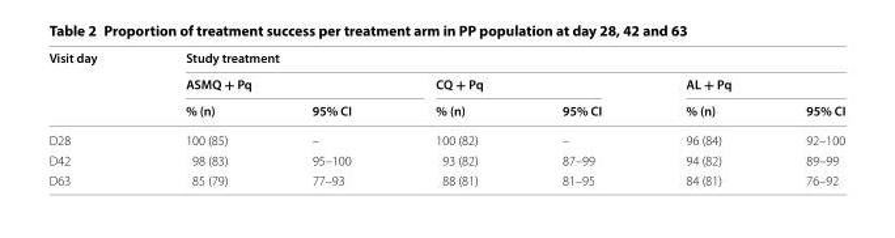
<table><thead><tr><td rowspan="3">Visit day</td><td colspan="6">Study treatment</td></tr><tr><td colspan="2">ASMQ + Pq</td><td colspan="2">CQ + Pq</td><td colspan="2">AL + Pq</td></tr><tr><td>% (n)</td><td>95% CI</td><td>% (n)</td><td>95% CI</td><td>% (n)</td><td>95% CI</td></tr></thead><tbody><tr><td>D28</td><td>100 (85)</td><td>–</td><td>100 (82)</td><td>–</td><td>96 (84)</td><td>92–100</td></tr><tr><td>D42</td><td>98 (83)</td><td>95–100</td><td>93 (82)</td><td>87–99</td><td>94 (82)</td><td>89–99</td></tr><tr><td>D63</td><td>85 (79)</td><td>77–93</td><td>88 (81)</td><td>81–95</td><td>84 (81)</td><td>76–92</td></tr></tbody></table>